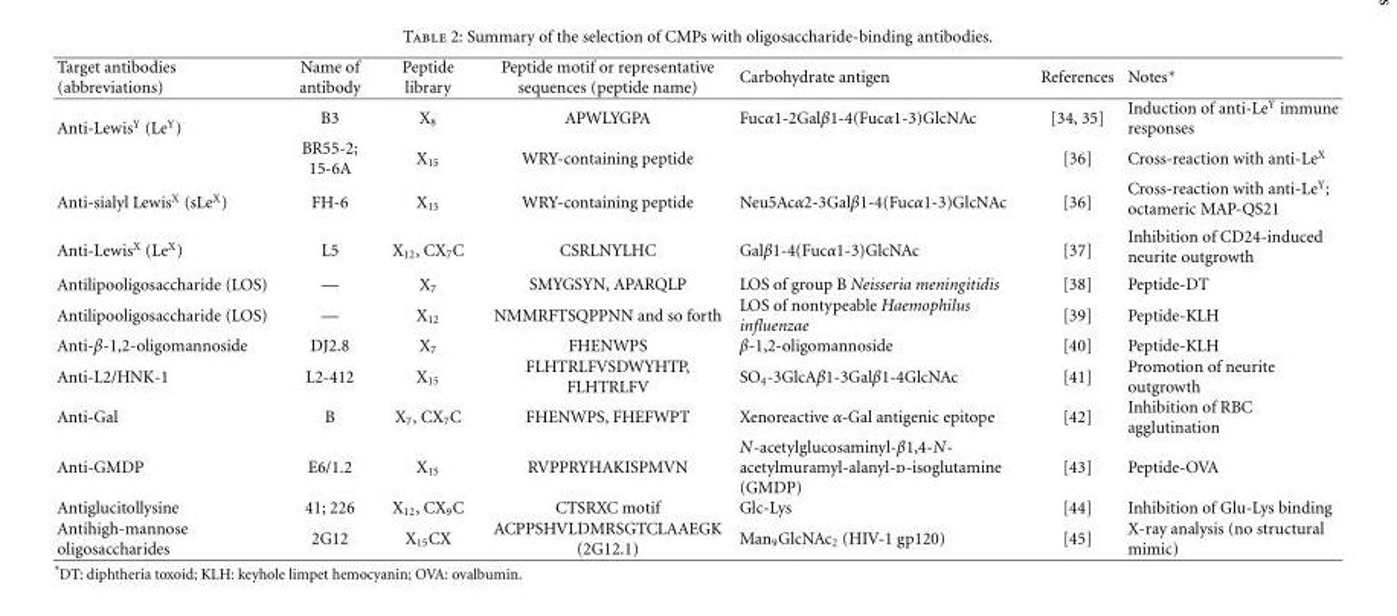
<table><thead><tr><td>Target antibodies (abbreviations)</td><td>Name of antibody</td><td>Peptide library</td><td>Peptide motif or representative sequences (peptide name)</td><td>Carbohydrate antigen</td><td>References</td><td>Notes∗</td></tr></thead><tbody><tr><td rowspan="2">Anti-Lewis<sup>Y</sup> (Le<sup>Y</sup>)</td><td>B3</td><td>X<sub>8</sub></td><td>APWLYGPA</td><td>Fucα1-2Galβ1-4(Fucα1-3)GlcNAc</td><td>[34, 35]</td><td>Induction of anti-Le<sup>Y</sup> immune responses</td></tr><tr><td>BR55-2; 15-6A</td><td>X<sub>15</sub></td><td>WRY-containing peptide</td><td></td><td>[36]</td><td>Cross-reaction with anti-Le<sup>X</sup></td></tr><tr><td>Anti-sialyl Lewis<sup>X</sup> (sLe<sup>X</sup>)</td><td>FH-6</td><td>X<sub>15</sub></td><td>WRY-containing peptide</td><td>Neu5Acα2-3Galβ1-4(Fucα1-3)GlcNAc</td><td>[36]</td><td>Cross-reaction with anti-Le<sup>Y</sup>; octameric MAP-QS21</td></tr><tr><td>Anti-Lewis<sup>X</sup> (Le<sup>X</sup>)</td><td>L5</td><td>X<sub>12</sub>, CX<sub>7</sub>C</td><td>CSRLNYLHC</td><td>Galβ1-4(Fucα1-3)GlcNAc</td><td>[37]</td><td>Inhibition of CD24-induced neurite outgrowth</td></tr><tr><td>Antilipooligosaccharide (LOS)</td><td>—</td><td>X<sub>7</sub></td><td>SMYGSYN, APARQLP</td><td>LOS of group B Neisseria meningitidis</td><td>[38]</td><td>Peptide-DT</td></tr><tr><td>Antilipooligosaccharide (LOS)</td><td>—</td><td>X<sub>12</sub></td><td>NMMRFTSQPPNN and so forth</td><td>LOS of nontypeable Haemophilus influenzae</td><td>[39]</td><td>Peptide-KLH</td></tr><tr><td>Anti-β-1,2-oligomannoside</td><td>DJ2.8</td><td>X<sub>7</sub></td><td>FHENWPS</td><td>β-1,2-oligomannoside</td><td>[40]</td><td>Peptide-KLH</td></tr><tr><td>Anti-L2/HNK-1</td><td>L2-412</td><td>X<sub>15</sub></td><td>FLHTRLFVSDWYHTP, FLHTRLFV</td><td>SO<sub>4</sub>-3GlcAβ1-3Galβ1-4GlcNAc</td><td>[41]</td><td>Promotion of neurite outgrowth</td></tr><tr><td>Anti-Gal</td><td>B</td><td>X<sub>7</sub>, CX<sub>7</sub>C</td><td>FHENWPS, FHEFWPT</td><td>Xenoreactive α-Gal antigenic epitope</td><td>[42]</td><td>Inhibition of RBC agglutination</td></tr><tr><td>Anti-GMDP</td><td>E6/1.2</td><td>X<sub>15</sub></td><td>RVPPRYHAKISPMVN</td><td>N-acetylglucosaminyl-β1,4-N- acetylmuramyl-alanyl-d-isoglutamine (GMDP)</td><td>[43]</td><td>Peptide-OVA</td></tr><tr><td>Antiglucitollysine</td><td>41; 226</td><td>X<sub>12</sub>, CX<sub>9</sub>C</td><td>CTSRXC motif</td><td>Glc-Lys</td><td>[44]</td><td>Inhibition of Glu-Lys binding</td></tr><tr><td>Antihigh-mannose oligosaccharides</td><td>2G12</td><td>X<sub>15</sub>CX</td><td>ACPPSHVLDMRSGTCLAAEGK (2G12.1)</td><td>Man<sub>9</sub>GlcNAc<sub>2</sub> (HIV-1 gp120)</td><td>[45]</td><td>X-ray analysis (no structural mimic)</td></tr></tbody></table>